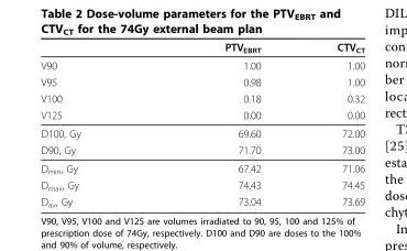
<table><thead><tr><td></td><td>PTV<sub>EBRT</sub></td><td>CTV<sub>CT</sub></td></tr></thead><tbody><tr><td>V90</td><td>1.00</td><td>1.00</td></tr><tr><td>V95</td><td>0.98</td><td>1.00</td></tr><tr><td>V100</td><td>0.18</td><td>0.32</td></tr><tr><td>V125</td><td>0.00</td><td>0.00</td></tr><tr><td>D100, Gy</td><td>69.60</td><td>72.00</td></tr><tr><td>D90, Gy</td><td>71.70</td><td>73.00</td></tr><tr><td>D<sub>min</sub>, Gy</td><td>67.42</td><td>71.06</td></tr><tr><td>D<sub>max</sub>, Gy</td><td>74.43</td><td>74.45</td></tr><tr><td>D<sub>av</sub>, Gy</td><td>73.04</td><td>73.69</td></tr></tbody></table>